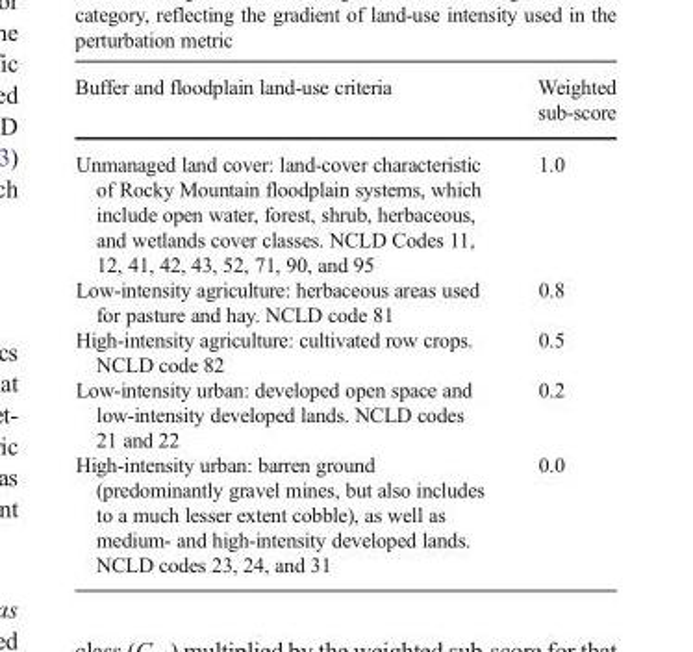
<table><thead><tr><td>Buffer and floodplain land-use criteria</td><td>Weighted sub-score</td></tr></thead><tbody><tr><td>Unmanaged land cover: land-cover characteristic of Rocky Mountain floodplain systems, which include open water, forest, shrub, herbaceous, and wetlands cover classes. NCLD Codes 11, 12, 41, 42, 43, 52, 71, 90, and 95</td><td>1.0</td></tr><tr><td>Low-intensity agriculture: herbaceous areas used for pasture and hay. NCLD code 81</td><td>0.8</td></tr><tr><td>High-intensity agriculture: cultivated row crops. NCLD code 82</td><td>0.5</td></tr><tr><td>Low-intensity urban: developed open space and low-intensity developed lands. NCLD codes 21 and 22</td><td>0.2</td></tr><tr><td>High-intensity urban: barren ground (predominantly gravel mines, but also includes to a much lesser extent cobble), as well as medium- and high-intensity developed lands. NCLD codes 23, 24, and 31</td><td>0.0</td></tr></tbody></table>